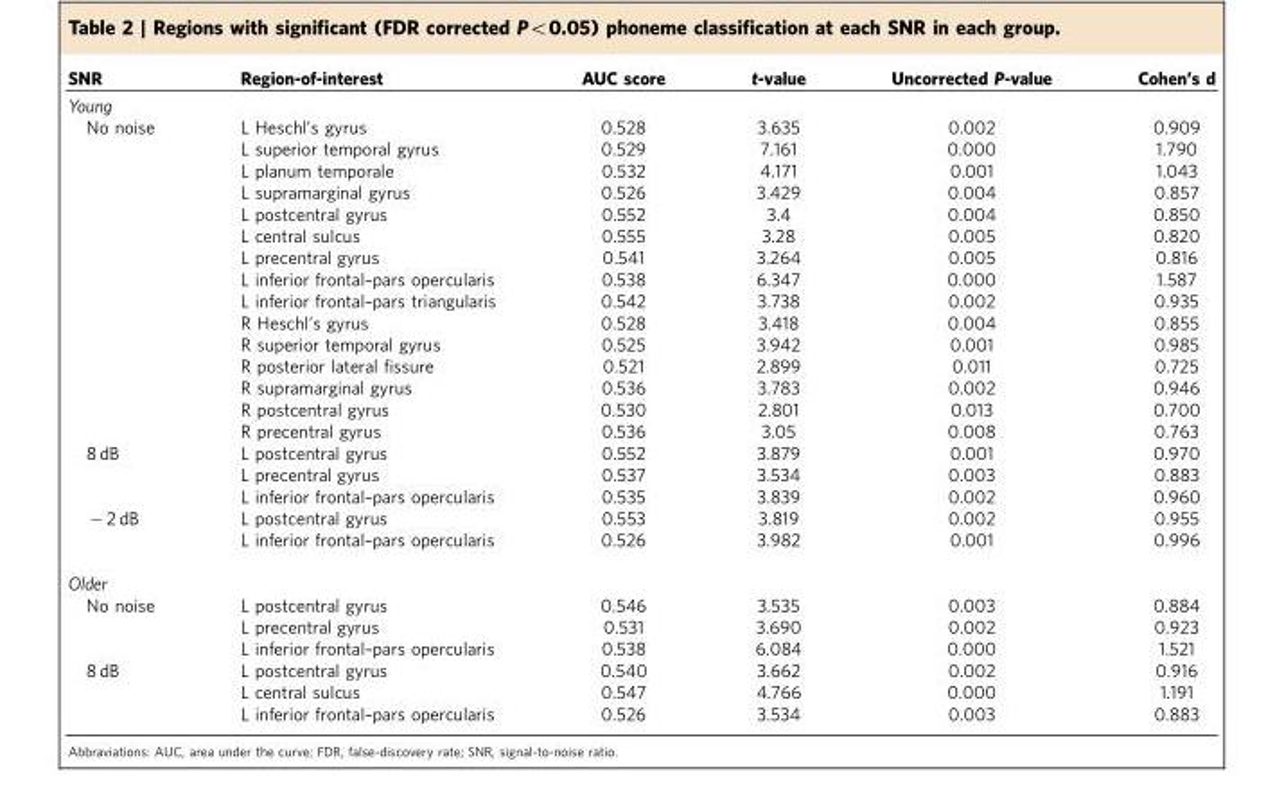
<table><thead><tr><td>SNR</td><td>Region-of-interest</td><td>AUC score</td><td>t-value</td><td>Uncorrected P-value</td><td>Cohen’s d</td></tr></thead><tbody><tr><td colspan="6">Young</td></tr><tr><td rowspan="15">No noise</td><td>L Heschl’s gyrus</td><td>0.528</td><td>3.635</td><td>0.002</td><td>0.909</td></tr><tr><td>L superior temporal gyrus</td><td>0.529</td><td>7.161</td><td>0.000</td><td>1.790</td></tr><tr><td>L planum temporale</td><td>0.532</td><td>4.171</td><td>0.001</td><td>1.043</td></tr><tr><td>L supramarginal gyrus</td><td>0.526</td><td>3.429</td><td>0.004</td><td>0.857</td></tr><tr><td>L postcentral gyrus</td><td>0.552</td><td>3.4</td><td>0.004</td><td>0.850</td></tr><tr><td>L central sulcus</td><td>0.555</td><td>3.28</td><td>0.005</td><td>0.820</td></tr><tr><td>L precentral gyrus</td><td>0.541</td><td>3.264</td><td>0.005</td><td>0.816</td></tr><tr><td>L inferior frontal–pars opercularis</td><td>0.538</td><td>6.347</td><td>0.000</td><td>1.587</td></tr><tr><td>L inferior frontal–pars triangularis</td><td>0.542</td><td>3.738</td><td>0.002</td><td>0.935</td></tr><tr><td>R Heschl’s gyrus</td><td>0.528</td><td>3.418</td><td>0.004</td><td>0.855</td></tr><tr><td>R superior temporal gyrus</td><td>0.525</td><td>3.942</td><td>0.001</td><td>0.985</td></tr><tr><td>R posterior lateral fissure</td><td>0.521</td><td>2.899</td><td>0.011</td><td>0.725</td></tr><tr><td>R supramarginal gyrus</td><td>0.536</td><td>3.783</td><td>0.002</td><td>0.946</td></tr><tr><td>R postcentral gyrus</td><td>0.530</td><td>2.801</td><td>0.013</td><td>0.700</td></tr><tr><td>R precentral gyrus</td><td>0.536</td><td>3.05</td><td>0.008</td><td>0.763</td></tr><tr><td rowspan="3">8 dB</td><td>L postcentral gyrus</td><td>0.552</td><td>3.879</td><td>0.001</td><td>0.970</td></tr><tr><td>L precentral gyrus</td><td>0.537</td><td>3.534</td><td>0.003</td><td>0.883</td></tr><tr><td>L inferior frontal–pars opercularis</td><td>0.535</td><td>3.839</td><td>0.002</td><td>0.960</td></tr><tr><td rowspan="2">− 2 dB</td><td>L postcentral gyrus</td><td>0.553</td><td>3.819</td><td>0.002</td><td>0.955</td></tr><tr><td>L inferior frontal–pars opercularis</td><td>0.526</td><td>3.982</td><td>0.001</td><td>0.996</td></tr><tr><td colspan="6">Older</td></tr><tr><td rowspan="3">No noise</td><td>L postcentral gyrus</td><td>0.546</td><td>3.535</td><td>0.003</td><td>0.884</td></tr><tr><td>L precentral gyrus</td><td>0.531</td><td>3.690</td><td>0.002</td><td>0.923</td></tr><tr><td>L inferior frontal–pars opercularis</td><td>0.538</td><td>6.084</td><td>0.000</td><td>1.521</td></tr><tr><td rowspan="3">8 dB</td><td>L postcentral gyrus</td><td>0.540</td><td>3.662</td><td>0.002</td><td>0.916</td></tr><tr><td>L central sulcus</td><td>0.547</td><td>4.766</td><td>0.000</td><td>1.191</td></tr><tr><td>L inferior frontal–pars opercularis</td><td>0.526</td><td>3.534</td><td>0.003</td><td>0.883</td></tr></tbody></table>